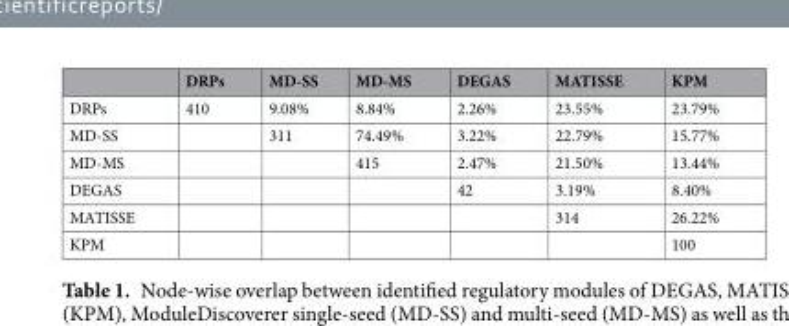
<table><thead><tr><td></td><td>DRPs</td><td>MD-SS</td><td>MD-MS</td><td>DEGAS</td><td>MATISSE</td><td>KPM</td></tr></thead><tbody><tr><td>DRPs</td><td>410</td><td>9.08%</td><td>8.84%</td><td>2.26%</td><td>23.55%</td><td>23.79%</td></tr><tr><td>MD-SS</td><td></td><td>311</td><td>74.49%</td><td>3.22%</td><td>22.79%</td><td>15.77%</td></tr><tr><td>MD-MS</td><td></td><td></td><td>415</td><td>2.47%</td><td>21.50%</td><td>13.44%</td></tr><tr><td>DEGAS</td><td></td><td></td><td></td><td>42</td><td>3.19%</td><td>8.40%</td></tr><tr><td>MATISSE</td><td></td><td></td><td></td><td></td><td>314</td><td>26.22%</td></tr><tr><td>KPM</td><td></td><td></td><td></td><td></td><td></td><td>100</td></tr></tbody></table>